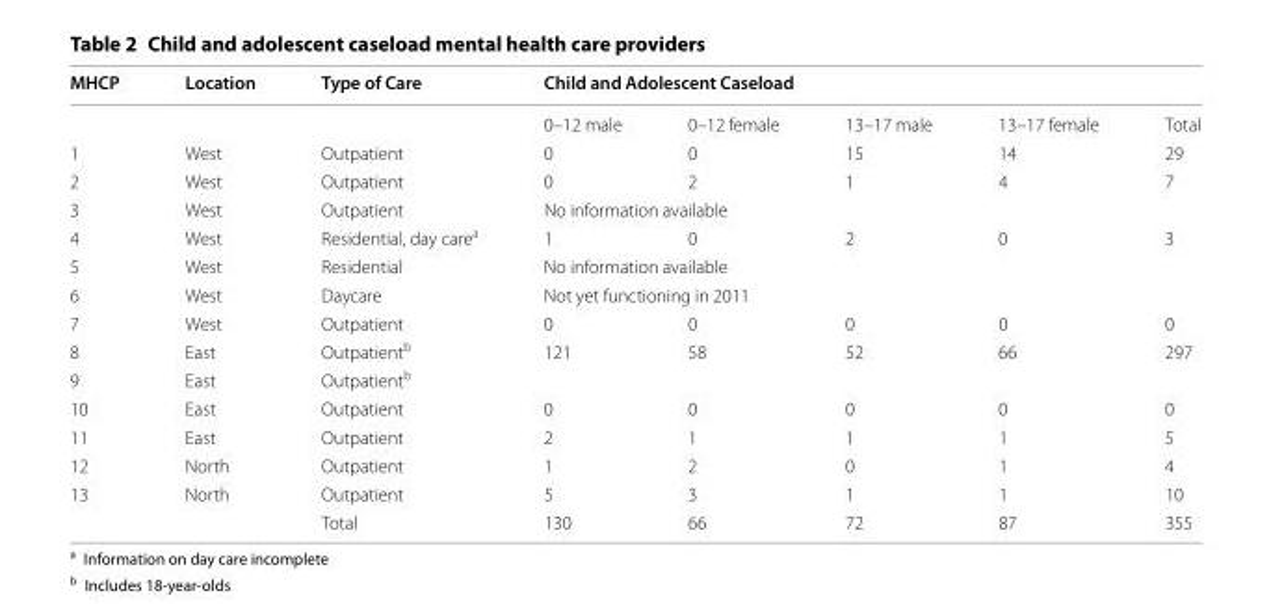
<table><thead><tr><td>MHCP</td><td>Location</td><td>Type of Care</td><td colspan="5">Child and Adolescent Caseload</td></tr><tr><td colspan="3"></td><td>0–12 male</td><td>0–12 female</td><td>13–17 male</td><td>13–17 female</td><td>Total</td></tr></thead><tbody><tr><td>1</td><td>West</td><td>Outpatient</td><td>0</td><td>0</td><td>15</td><td>14</td><td>29</td></tr><tr><td>2</td><td>West</td><td>Outpatient</td><td>0</td><td>2</td><td>1</td><td>4</td><td>7</td></tr><tr><td>3</td><td>West</td><td>Outpatient</td><td colspan="5">No information available</td></tr><tr><td>4</td><td>West</td><td>Residential, day care<sup>a</sup></td><td>1</td><td>0</td><td>2</td><td>0</td><td>3</td></tr><tr><td>5</td><td>West</td><td>Residential</td><td colspan="5">No information available</td></tr><tr><td>6</td><td>West</td><td>Daycare</td><td colspan="5">Not yet functioning in 2011</td></tr><tr><td>7</td><td>West</td><td>Outpatient</td><td>0</td><td>0</td><td>0</td><td>0</td><td>0</td></tr><tr><td>8</td><td>East</td><td>Outpatient<sup>b</sup></td><td rowspan="2">121</td><td rowspan="2">58</td><td rowspan="2">52</td><td rowspan="2">66</td><td rowspan="2">297</td></tr><tr><td>9</td><td>East</td><td>Outpatient<sup>b</sup></td></tr><tr><td>10</td><td>East</td><td>Outpatient</td><td>0</td><td>0</td><td>0</td><td>0</td><td>0</td></tr><tr><td>11</td><td>East</td><td>Outpatient</td><td>2</td><td>1</td><td>1</td><td>1</td><td>5</td></tr><tr><td>12</td><td>North</td><td>Outpatient</td><td>1</td><td>2</td><td>0</td><td>1</td><td>4</td></tr><tr><td>13</td><td>North</td><td>Outpatient</td><td>5</td><td>3</td><td>1</td><td>1</td><td>10</td></tr><tr><td colspan="2"></td><td>Total</td><td>130</td><td>66</td><td>72</td><td>87</td><td>355</td></tr></tbody></table>